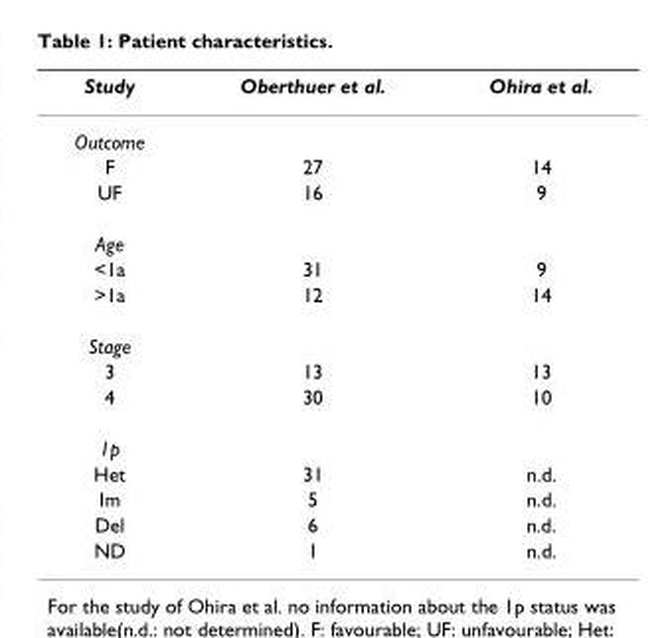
<table><thead><tr><td>Study</td><td>Oberthuer et al.</td><td>Ohira et al.</td></tr></thead><tbody><tr><td colspan="3">Outcome</td></tr><tr><td>F</td><td>27</td><td>14</td></tr><tr><td>UF</td><td>16</td><td>9</td></tr><tr><td colspan="3">Age</td></tr><tr><td>&lt;1a</td><td>31</td><td>9</td></tr><tr><td>&gt;1a</td><td>12</td><td>14</td></tr><tr><td colspan="3">Stage</td></tr><tr><td>3</td><td>13</td><td>13</td></tr><tr><td>4</td><td>30</td><td>10</td></tr><tr><td colspan="3">1p</td></tr><tr><td>Het</td><td>31</td><td>n.d.</td></tr><tr><td>Im</td><td>5</td><td>n.d.</td></tr><tr><td>Del</td><td>6</td><td>n.d.</td></tr><tr><td>ND</td><td>1</td><td>n.d.</td></tr></tbody></table>